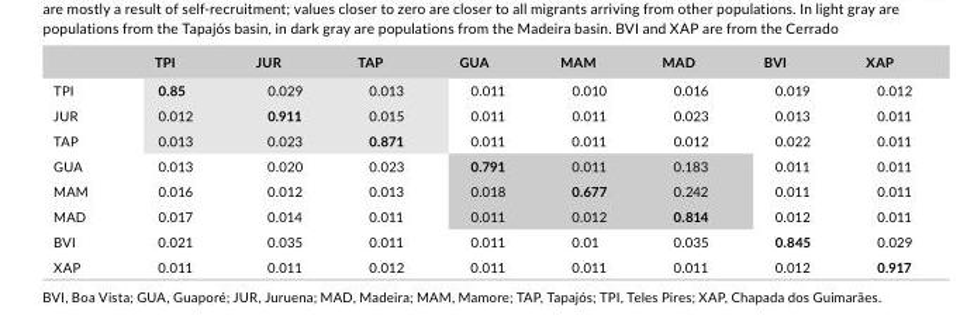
<table><thead><tr><td></td><td>TPI</td><td>JUR</td><td>TAP</td><td>GUA</td><td>MAM</td><td>MAD</td><td>BVI</td><td>XAP</td></tr></thead><tbody><tr><td>TPI</td><td>0.85</td><td>0.029</td><td>0.013</td><td>0.011</td><td>0.010</td><td>0.016</td><td>0.019</td><td>0.012</td></tr><tr><td>JUR</td><td>0.012</td><td>0.911</td><td>0.015</td><td>0.011</td><td>0.011</td><td>0.023</td><td>0.013</td><td>0.011</td></tr><tr><td>TAP</td><td>0.013</td><td>0.023</td><td>0.871</td><td>0.011</td><td>0.011</td><td>0.012</td><td>0.022</td><td>0.011</td></tr><tr><td>GUA</td><td>0.013</td><td>0.020</td><td>0.023</td><td>0.791</td><td>0.011</td><td>0.183</td><td>0.011</td><td>0.011</td></tr><tr><td>MAM</td><td>0.016</td><td>0.012</td><td>0.013</td><td>0.018</td><td>0.677</td><td>0.242</td><td>0.011</td><td>0.011</td></tr><tr><td>MAD</td><td>0.017</td><td>0.014</td><td>0.011</td><td>0.011</td><td>0.012</td><td>0.814</td><td>0.012</td><td>0.011</td></tr><tr><td>BVI</td><td>0.021</td><td>0.035</td><td>0.011</td><td>0.011</td><td>0.01</td><td>0.035</td><td>0.845</td><td>0.029</td></tr><tr><td>XAP</td><td>0.011</td><td>0.011</td><td>0.012</td><td>0.011</td><td>0.011</td><td>0.011</td><td>0.012</td><td>0.917</td></tr></tbody></table>